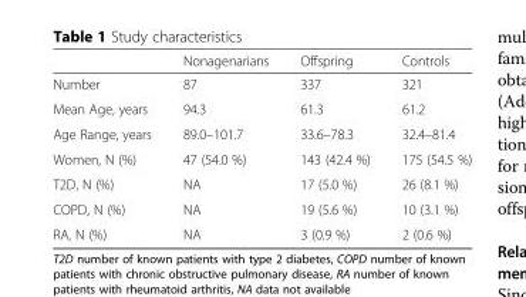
<table><thead><tr><td></td><td>Nonagenarians</td><td>Offspring</td><td>Controls</td></tr></thead><tbody><tr><td>Number</td><td>87</td><td>337</td><td>321</td></tr><tr><td>Mean Age, years</td><td>94.3</td><td>61.3</td><td>61.2</td></tr><tr><td>Age Range, years</td><td>89.0–101.7</td><td>33.6–78.3</td><td>32.4–81.4</td></tr><tr><td>Women, N (%)</td><td>47 (54.0 %)</td><td>143 (42.4 %)</td><td>175 (54.5 %)</td></tr><tr><td>T2D, N (%)</td><td>NA</td><td>17 (5.0 %)</td><td>26 (8.1 %)</td></tr><tr><td>COPD, N (%)</td><td>NA</td><td>19 (5.6 %)</td><td>10 (3.1 %)</td></tr><tr><td>RA, N (%)</td><td>NA</td><td>3 (0.9 %)</td><td>2 (0.6 %)</td></tr></tbody></table>